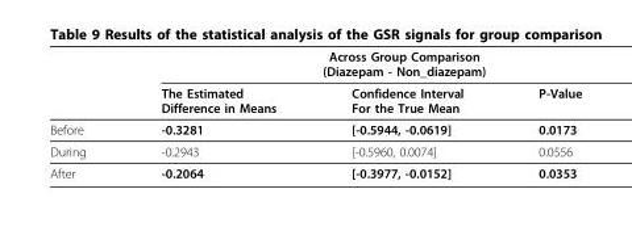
<table><thead><tr><td rowspan="2"></td><td colspan="3">Across Group Comparison (Diazepam - Non_diazepam)</td></tr><tr><td>The Estimated Difference in Means</td><td>Confidence Interval For the True Mean</td><td>P-Value</td></tr></thead><tbody><tr><td>Before</td><td>-0.3281</td><td>[-0.5944, -0.0619]</td><td>0.0173</td></tr><tr><td>During</td><td>-0.2943</td><td>[-0.5960, 0.0074]</td><td>0.0556</td></tr><tr><td>After</td><td>-0.2064</td><td>[-0.3977, -0.0152]</td><td>0.0353</td></tr></tbody></table>